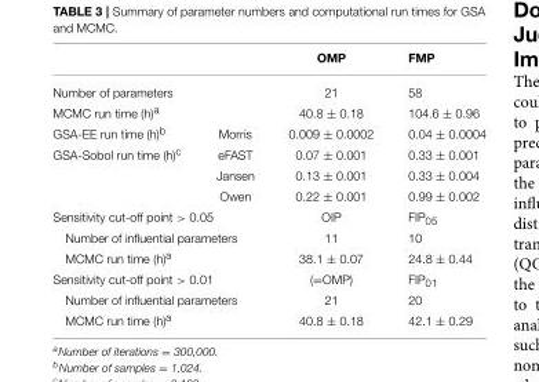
<table><thead><tr><td></td><td></td><td>OMP</td><td>FMP</td></tr></thead><tbody><tr><td colspan="2">Number of parameters</td><td>21</td><td>58</td></tr><tr><td colspan="2">MCMC run time (h)<sup>a</sup></td><td>40.8 ± 0.18</td><td>104.6 ± 0.96</td></tr><tr><td>GSA-EE run time (h)<sup>b</sup></td><td>Morris</td><td>0.009 ± 0.0002</td><td>0.04 ± 0.0004</td></tr><tr><td rowspan="3">GSA-Sobol run time (h)<sup>c</sup></td><td>eFAST</td><td>0.07 ± 0.001</td><td>0.33 ± 0.001</td></tr><tr><td>Jansen</td><td>0.13 ± 0.001</td><td>0.33 ± 0.004</td></tr><tr><td>Owen</td><td>0.22 ± 0.001</td><td>0.99 ± 0.002</td></tr><tr><td colspan="2">Sensitivity cut-off point &gt; 0.05</td><td>OIP</td><td>FIP<sub>05</sub></td></tr><tr><td colspan="2">Number of influential parameters</td><td>11</td><td>10</td></tr><tr><td colspan="2">MCMC run time (h)<sup>a</sup></td><td>38.1 ± 0.07</td><td>24.8 ± 0.44</td></tr><tr><td colspan="2">Sensitivity cut-off point &gt; 0.01</td><td>(=OMP)</td><td>FIP<sub>01</sub></td></tr><tr><td colspan="2">Number of influential parameters</td><td>21</td><td>20</td></tr><tr><td colspan="2">MCMC run time (h)<sup>a</sup></td><td>40.8 ± 0.18</td><td>42.1 ± 0.29</td></tr></tbody></table>